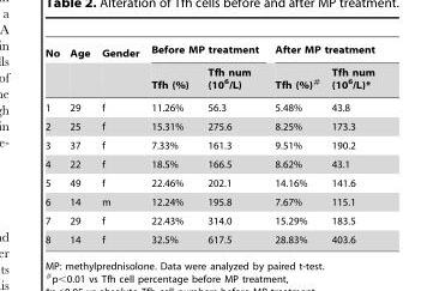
<table><thead><tr><td rowspan="2">No</td><td rowspan="2">Age</td><td rowspan="2">Gender</td><td colspan="2">Before MP treatment</td><td colspan="2">After MP treatment</td></tr><tr><td>Tfh (%)</td><td>Tfh num (10<sup>6</sup>/L)</td><td>Tfh (%)#</td><td>Tfh num (10<sup>6</sup>/L)*</td></tr></thead><tbody><tr><td>1</td><td>29</td><td>f</td><td>11.26%</td><td>56.3</td><td>5.48%</td><td>43.8</td></tr><tr><td>2</td><td>25</td><td>f</td><td>15.31%</td><td>275.6</td><td>8.25%</td><td>173.3</td></tr><tr><td>3</td><td>37</td><td>f</td><td>7.33%</td><td>161.3</td><td>9.51%</td><td>190.2</td></tr><tr><td>4</td><td>22</td><td>f</td><td>18.5%</td><td>166.5</td><td>8.62%</td><td>43.1</td></tr><tr><td>5</td><td>49</td><td>f</td><td>22.46%</td><td>202.1</td><td>14.16%</td><td>141.6</td></tr><tr><td>6</td><td>14</td><td>m</td><td>12.24%</td><td>195.8</td><td>7.67%</td><td>115.1</td></tr><tr><td>7</td><td>29</td><td>f</td><td>22.43%</td><td>314.0</td><td>15.29%</td><td>183.5</td></tr><tr><td>8</td><td>14</td><td>f</td><td>32.5%</td><td>617.5</td><td>28.83%</td><td>403.6</td></tr></tbody></table>